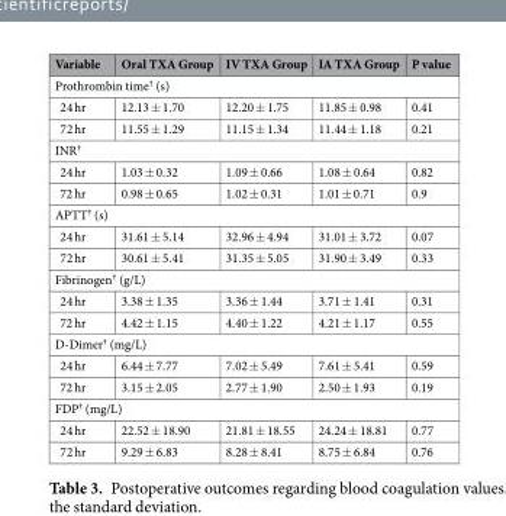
<table><thead><tr><td>Variable</td><td>Oral TXA Group</td><td>IV TXA Group</td><td>IA TXA Group</td><td>P value</td></tr></thead><tbody><tr><td colspan="5">Prothrombin time<sup>†</sup> (s)</td></tr><tr><td>24 hr</td><td>12.13 ± 1.70</td><td>12.20 ± 1.75</td><td>11.85 ± 0.98</td><td>0.41</td></tr><tr><td>72 hr</td><td>11.55 ± 1.29</td><td>11.15 ± 1.34</td><td>11.44 ± 1.18</td><td>0.21</td></tr><tr><td colspan="5">INR<sup>†</sup></td></tr><tr><td>24 hr</td><td>1.03 ± 0.32</td><td>1.09 ± 0.66</td><td>1.08 ± 0.64</td><td>0.82</td></tr><tr><td>72 hr</td><td>0.98 ± 0.65</td><td>1.02 ± 0.31</td><td>1.01 ± 0.71</td><td>0.9</td></tr><tr><td colspan="5">APTT<sup>†</sup> (s)</td></tr><tr><td>24 hr</td><td>31.61 ± 5.14</td><td>32.96 ± 4.94</td><td>31.01 ± 3.72</td><td>0.07</td></tr><tr><td>72 hr</td><td>30.61 ± 5.41</td><td>31.35 ± 5.05</td><td>31.90 ± 3.49</td><td>0.33</td></tr><tr><td colspan="5">Fibrinogen<sup>†</sup> (g/L)</td></tr><tr><td>24 hr</td><td>3.38 ± 1.35</td><td>3.36 ± 1.44</td><td>3.71 ± 1.41</td><td>0.31</td></tr><tr><td>72 hr</td><td>4.42 ± 1.15</td><td>4.40 ± 1.22</td><td>4.21 ± 1.17</td><td>0.55</td></tr><tr><td colspan="5">D-Dimer<sup>†</sup> (mg/L)</td></tr><tr><td>24 hr</td><td>6.44 ± 7.77</td><td>7.02 ± 5.49</td><td>7.61 ± 5.41</td><td>0.59</td></tr><tr><td>72 hr</td><td>3.15 ± 2.05</td><td>2.77 ± 1.90</td><td>2.50 ± 1.93</td><td>0.19</td></tr><tr><td colspan="5">FDP<sup>†</sup> (mg/L)</td></tr><tr><td>24 hr</td><td>22.52 ± 18.90</td><td>21.81 ± 18.55</td><td>24.24 ± 18.81</td><td>0.77</td></tr><tr><td>72 hr</td><td>9.29 ± 6.83</td><td>8.28 ± 8.41</td><td>8.75 ± 6.84</td><td>0.76</td></tr></tbody></table>